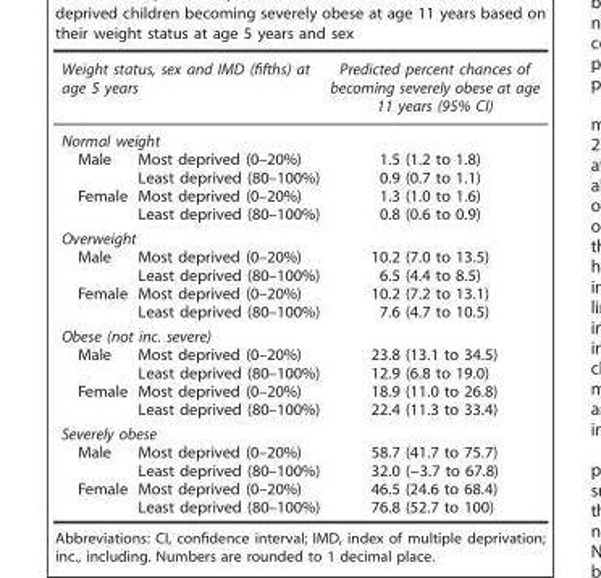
<table><thead><tr><td colspan="2">Weight status, sex and IMD (fifths) at age 5 years</td><td>Predicted percent chances of becoming severely obese at age 11 years (95% CI)</td></tr><tr><td colspan="3">Normal weight</td></tr><tr><td>Male</td><td>Most deprived (0–20%)</td><td>1.5 (1.2 to 1.8)</td></tr></thead><tbody><tr><td></td><td>Least deprived (80–100%)</td><td>0.9 (0.7 to 1.1)</td></tr><tr><td rowspan="2">Female</td><td>Most deprived (0–20%)</td><td>1.3 (1.0 to 1.6)</td></tr><tr><td>Least deprived (80–100%)</td><td>0.8 (0.6 to 0.9)</td></tr><tr><td colspan="3">Overweight</td></tr><tr><td rowspan="2">Male</td><td>Most deprived (0–20%)</td><td>10.2 (7.0 to 13.5)</td></tr><tr><td>Least deprived (80–100%)</td><td>6.5 (4.4 to 8.5)</td></tr><tr><td rowspan="2">Female</td><td>Most deprived (0–20%)</td><td>10.2 (7.2 to 13.1)</td></tr><tr><td>Least deprived (80–100%)</td><td>7.6 (4.7 to 10.5)</td></tr><tr><td colspan="3">Obese (not inc. severe)</td></tr><tr><td rowspan="2">Male</td><td>Most deprived (0–20%)</td><td>23.8 (13.1 to 34.5)</td></tr><tr><td>Least deprived (80–100%)</td><td>12.9 (6.8 to 19.0)</td></tr><tr><td rowspan="2">Female</td><td>Most deprived (0–20%)</td><td>18.9 (11.0 to 26.8)</td></tr><tr><td>Least deprived (80–100%)</td><td>22.4 (11.3 to 33.4)</td></tr><tr><td colspan="3">Severely obese</td></tr><tr><td rowspan="2">Male</td><td>Most deprived (0–20%)</td><td>58.7 (41.7 to 75.7)</td></tr><tr><td>Least deprived (80–100%)</td><td>32.0 (−3.7 to 67.8)</td></tr><tr><td rowspan="2">Female</td><td>Most deprived (0–20%)</td><td>46.5 (24.6 to 68.4)</td></tr><tr><td>Least deprived (80–100%)</td><td>76.8 (52.7 to 100)</td></tr></tbody></table>